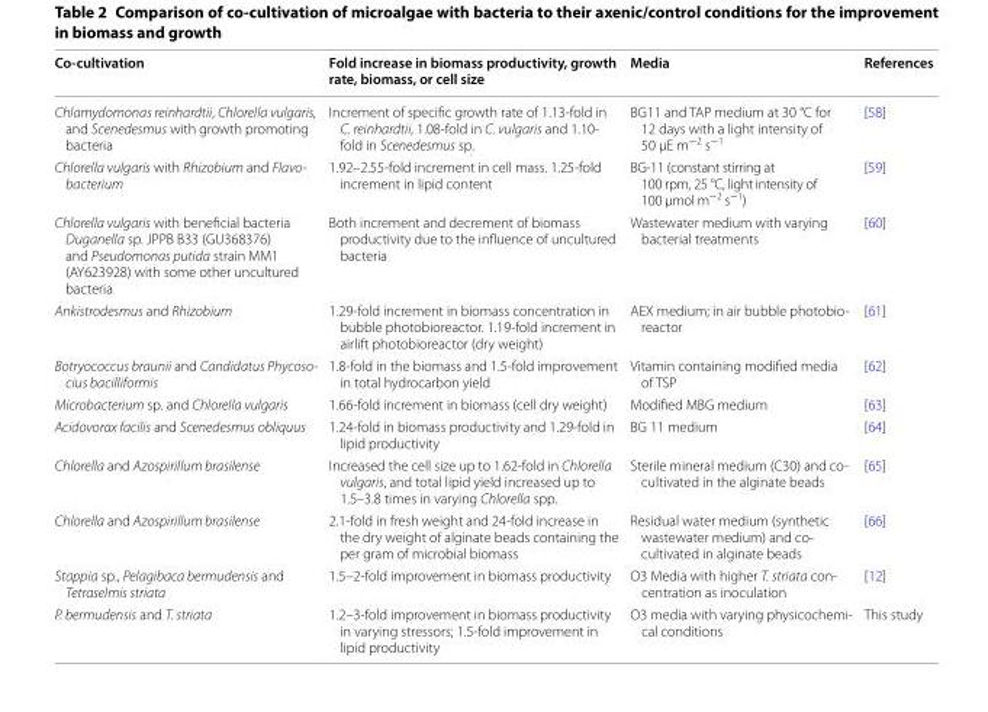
<table><thead><tr><td>Co‑cultivation</td><td>Fold increase in biomass productivity, growth rate, biomass, or cell size</td><td>Media</td><td>References</td></tr></thead><tbody><tr><td>Chlamydomonas reinhardtii, Chlorella vulgaris, and Scenedesmus with growth promoting bacteria</td><td>Increment of specific growth rate of 1.13‑fold in C. reinhardtii, 1.08‑fold in C. vulgaris and 1.10‑ fold in Scenedesmus sp.</td><td>BG11 and TAP medium at 30 °C for 12 days with a light intensity of 50 μE m<sup>−2</sup> s<sup>−1</sup></td><td>[58]</td></tr><tr><td>Chlorella vulgaris with Rhizobium and Flavo- bacterium</td><td>1.92–2.55‑fold increment in cell mass. 1.25‑fold increment in lipid content</td><td>BG‑11 (constant stirring at 100 rpm, 25 °C, light intensity of 100 μmol m<sup>−2</sup> s<sup>−1</sup>)</td><td>[59]</td></tr><tr><td>Chlorella vulgaris with beneficial bacteria Duganella sp. JPPB B33 (GU368376) and Pseudomonas putida strain MM1 (AY623928) with some other uncultured bacteria</td><td>Both increment and decrement of biomass productivity due to the influence of uncultured bacteria</td><td>Wastewater medium with varying bacterial treatments</td><td>[60]</td></tr><tr><td>Ankistrodesmus and Rhizobium</td><td>1.29‑fold increment in biomass concentration in bubble photobioreactor. 1.19‑fold increment in airlift photobioreactor (dry weight)</td><td>AEX medium; in air bubble photobio‑ reactor</td><td>[61]</td></tr><tr><td>Botryococcus braunii and Candidatus Phycoso- cius bacilliformis</td><td>1.8‑fold in the biomass and 1.5‑fold improvement in total hydrocarbon yield</td><td>Vitamin containing modified media of TSP</td><td>[62]</td></tr><tr><td>Microbacterium sp. and Chlorella vulgaris</td><td>1.66‑fold increment in biomass (cell dry weight)</td><td>Modified MBG medium</td><td>[63]</td></tr><tr><td>Acidovorax facilis and Scenedesmus obliquus</td><td>1.24‑fold in biomass productivity and 1.29‑fold in lipid productivity</td><td>BG 11 medium</td><td>[64]</td></tr><tr><td>Chlorella and Azospirillum brasilense</td><td>Increased the cell size up to 1.62‑fold in Chlorella vulgaris, and total lipid yield increased up to 1.5–3.8 times in varying Chlorella spp.</td><td>Sterile mineral medium (C30) and co‑ cultivated in the alginate beads</td><td>[65]</td></tr><tr><td>Chlorella and Azospirillum brasilense</td><td>2.1‑fold in fresh weight and 24‑fold increase in the dry weight of alginate beads containing the per gram of microbial biomass</td><td>Residual water medium (synthetic wastewater medium) and co‑ cultivated in alginate beads</td><td>[66]</td></tr><tr><td>Stappia sp., Pelagibaca bermudensis and Tetraselmis striata</td><td>1.5–2‑fold improvement in biomass productivity</td><td>O3 Media with higher T. striata con‑ centration as inoculation</td><td>[12]</td></tr><tr><td>P. bermudensis and T. striata</td><td>1.2–3‑fold improvement in biomass productivity in varying stressors; 1.5‑fold improvement in lipid productivity</td><td>O3 media with varying physicochemi‑ cal conditions</td><td>This study</td></tr></tbody></table>